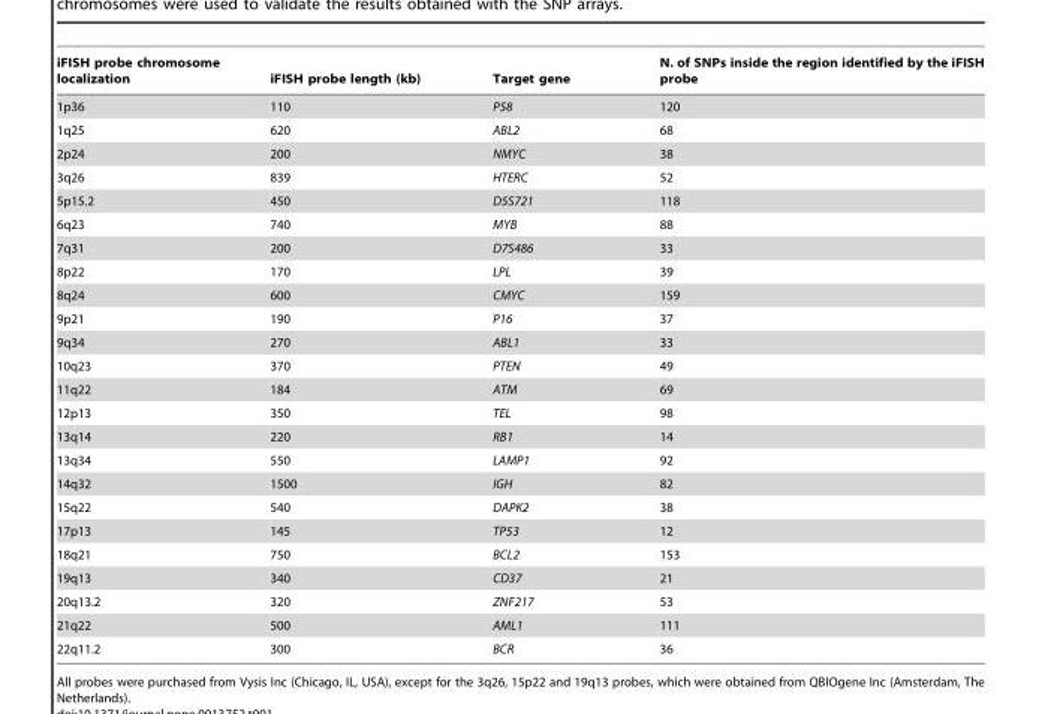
<table><thead><tr><td>iFISH probe chromosome localization</td><td>iFISH probe length (kb)</td><td>Target gene</td><td>N. of SNPs inside the region identified by the iFISH probe</td></tr></thead><tbody><tr><td>1p36</td><td>110</td><td>P58</td><td>120</td></tr><tr><td>1q25</td><td>620</td><td>ABL2</td><td>68</td></tr><tr><td>2p24</td><td>200</td><td>NMYC</td><td>38</td></tr><tr><td>3q26</td><td>839</td><td>HTERC</td><td>52</td></tr><tr><td>5p15.2</td><td>450</td><td>D5S721</td><td>118</td></tr><tr><td>6q23</td><td>740</td><td>MYB</td><td>88</td></tr><tr><td>7q31</td><td>200</td><td>D7S486</td><td>33</td></tr><tr><td>8p22</td><td>170</td><td>LPL</td><td>39</td></tr><tr><td>8q24</td><td>600</td><td>CMYC</td><td>159</td></tr><tr><td>9p21</td><td>190</td><td>P16</td><td>37</td></tr><tr><td>9q34</td><td>270</td><td>ABL1</td><td>33</td></tr><tr><td>10q23</td><td>370</td><td>PTEN</td><td>49</td></tr><tr><td>11q22</td><td>184</td><td>ATM</td><td>69</td></tr><tr><td>12p13</td><td>350</td><td>TEL</td><td>98</td></tr><tr><td>13q14</td><td>220</td><td>RB1</td><td>14</td></tr><tr><td>13q34</td><td>550</td><td>LAMP1</td><td>92</td></tr><tr><td>14q32</td><td>1500</td><td>IGH</td><td>82</td></tr><tr><td>15q22</td><td>540</td><td>DAPK2</td><td>38</td></tr><tr><td>17p13</td><td>145</td><td>TP53</td><td>12</td></tr><tr><td>18q21</td><td>750</td><td>BCL2</td><td>153</td></tr><tr><td>19q13</td><td>340</td><td>CD37</td><td>21</td></tr><tr><td>20q13.2</td><td>320</td><td>ZNF217</td><td>53</td></tr><tr><td>21q22</td><td>500</td><td>AML1</td><td>111</td></tr><tr><td>22q11.2</td><td>300</td><td>BCR</td><td>36</td></tr></tbody></table>